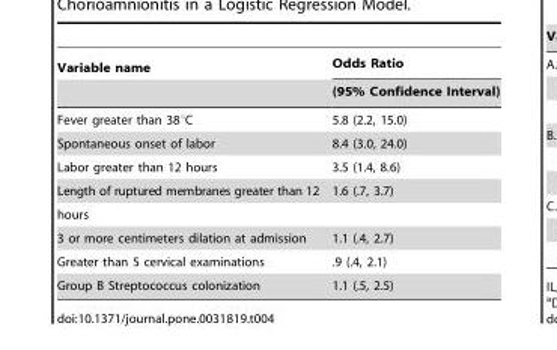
<table><thead><tr><td rowspan="2">Variable name</td><td rowspan="2">Odds Ratio (95% Confidence Interval)</td></tr><tr></tr></thead><tbody><tr><td>Fever greater than 38°C</td><td>5.8 (2.2, 15.0)</td></tr><tr><td>Spontaneous onset of labor</td><td>8.4 (3.0, 24.0)</td></tr><tr><td>Labor greater than 12 hours</td><td>3.5 (1.4, 8.6)</td></tr><tr><td>Length of ruptured membranes greater than 12</td><td>1.6 (.7, 3.7)</td></tr><tr><td colspan="2">hours</td></tr><tr><td>3 or more centimeters dilation at admission</td><td>1.1 (.4, 2.7)</td></tr><tr><td>Greater than 5 cervical examinations</td><td>.9 (.4, 2.1)</td></tr><tr><td>Group B Streptococcus colonization</td><td>1.1 (.5, 2.5)</td></tr></tbody></table>